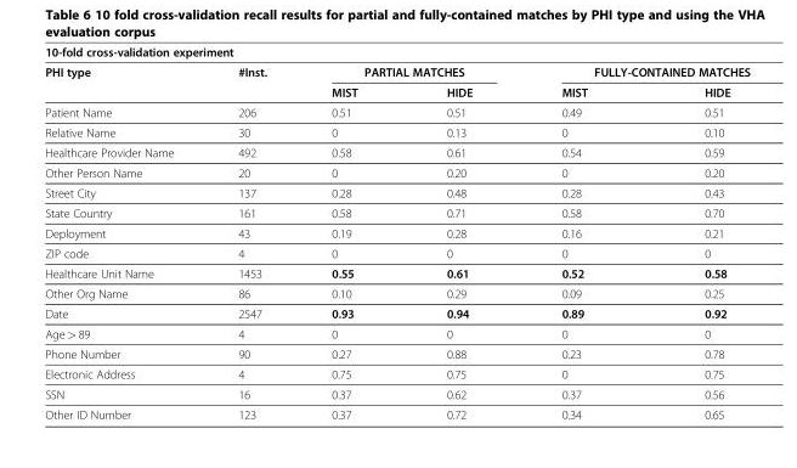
<table><thead><tr><td colspan="6">10-fold cross-validation experiment</td></tr><tr><td rowspan="2">PHI type</td><td rowspan="2">#Inst.</td><td colspan="2">PARTIAL MATCHES</td><td colspan="2">FULLY-CONTAINED MATCHES</td></tr><tr><td>MIST</td><td>HIDE</td><td>MIST</td><td>HIDE</td></tr></thead><tbody><tr><td>Patient Name</td><td>206</td><td>0.51</td><td>0.51</td><td>0.49</td><td>0.51</td></tr><tr><td>Relative Name</td><td>30</td><td>0</td><td>0.13</td><td>0</td><td>0.10</td></tr><tr><td>Healthcare Provider Name</td><td>492</td><td>0.58</td><td>0.61</td><td>0.54</td><td>0.59</td></tr><tr><td>Other Person Name</td><td>20</td><td>0</td><td>0.20</td><td>0</td><td>0.20</td></tr><tr><td>Street City</td><td>137</td><td>0.28</td><td>0.48</td><td>0.28</td><td>0.43</td></tr><tr><td>State Country</td><td>161</td><td>0.58</td><td>0.71</td><td>0.58</td><td>0.70</td></tr><tr><td>Deployment</td><td>43</td><td>0.19</td><td>0.28</td><td>0.16</td><td>0.21</td></tr><tr><td>ZIP code</td><td>4</td><td>0</td><td>0</td><td>0</td><td>0</td></tr><tr><td>Healthcare Unit Name</td><td>1453</td><td>0.55</td><td>0.61</td><td>0.52</td><td>0.58</td></tr><tr><td>Other Org Name</td><td>86</td><td>0.10</td><td>0.29</td><td>0.09</td><td>0.25</td></tr><tr><td>Date</td><td>2547</td><td>0.93</td><td>0.94</td><td>0.89</td><td>0.92</td></tr><tr><td>Age &gt; 89</td><td>4</td><td>0</td><td>0</td><td>0</td><td>0</td></tr><tr><td>Phone Number</td><td>90</td><td>0.27</td><td>0.88</td><td>0.23</td><td>0.78</td></tr><tr><td>Electronic Address</td><td>4</td><td>0.75</td><td>0.75</td><td>0</td><td>0.75</td></tr><tr><td>SSN</td><td>16</td><td>0.37</td><td>0.62</td><td>0.37</td><td>0.56</td></tr><tr><td>Other ID Number</td><td>123</td><td>0.37</td><td>0.72</td><td>0.34</td><td>0.65</td></tr></tbody></table>